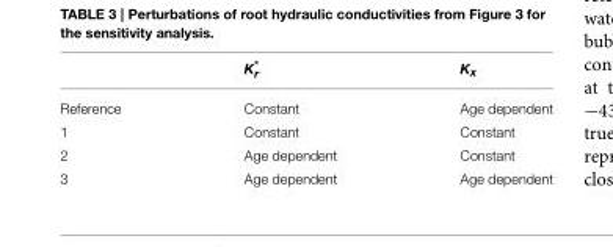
<table><thead><tr><td></td><td>K*<sub>r</sub></td><td>K<sub>x</sub></td></tr></thead><tbody><tr><td>Reference</td><td>Constant</td><td>Age dependent</td></tr><tr><td>1</td><td>Constant</td><td>Constant</td></tr><tr><td>2</td><td>Age dependent</td><td>Constant</td></tr><tr><td>3</td><td>Age dependent</td><td>Age dependent</td></tr></tbody></table>